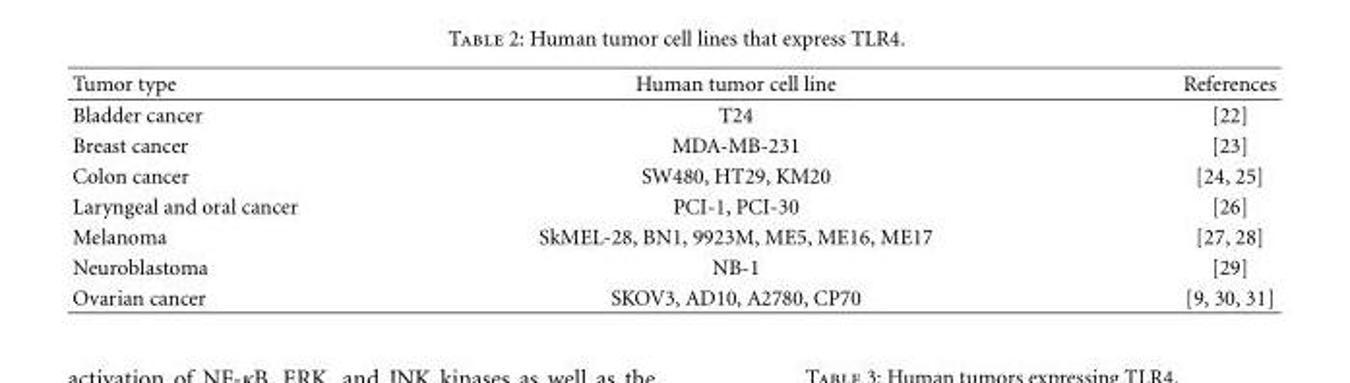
<table><thead><tr><td>Tumor type</td><td>Human tumor cell line</td><td>References</td></tr></thead><tbody><tr><td>Bladder cancer</td><td>T24</td><td>[22]</td></tr><tr><td>Breast cancer</td><td>MDA-MB-231</td><td>[23]</td></tr><tr><td>Colon cancer</td><td>SW480, HT29, KM20</td><td>[24, 25]</td></tr><tr><td>Laryngeal and oral cancer</td><td>PCI-1, PCI-30</td><td>[26]</td></tr><tr><td>Melanoma</td><td>SkMEL-28, BN1, 9923M, ME5, ME16, ME17</td><td>[27, 28]</td></tr><tr><td>Neuroblastoma</td><td>NB-1</td><td>[29]</td></tr><tr><td>Ovarian cancer</td><td>SKOV3, AD10, A2780, CP70</td><td>[9, 30, 31]</td></tr></tbody></table>